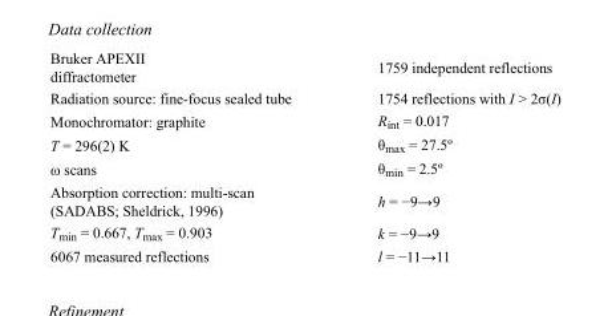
<table><tbody><tr><td>Bruker APEXII diffractometer</td><td>1759 independent reflections</td></tr><tr><td>Radiation source: fine-focus sealed tube</td><td>1754 reflections with I &gt; 2σ(I)</td></tr><tr><td>Monochromator: graphite</td><td>R<sub>int</sub> = 0.017</td></tr><tr><td>T = 296(2) K</td><td>θ<sub>max</sub> = 27.5º</td></tr><tr><td>ω scans</td><td>θ<sub>min</sub> = 2.5º</td></tr><tr><td>Absorption correction: multi-scan (SADABS; Sheldrick, 1996)</td><td>h = −9→9</td></tr><tr><td>T<sub>min</sub> = 0.667, T<sub>max</sub> = 0.903</td><td>k = −9→9</td></tr><tr><td>6067 measured reflections</td><td>l = −11→11</td></tr></tbody></table>